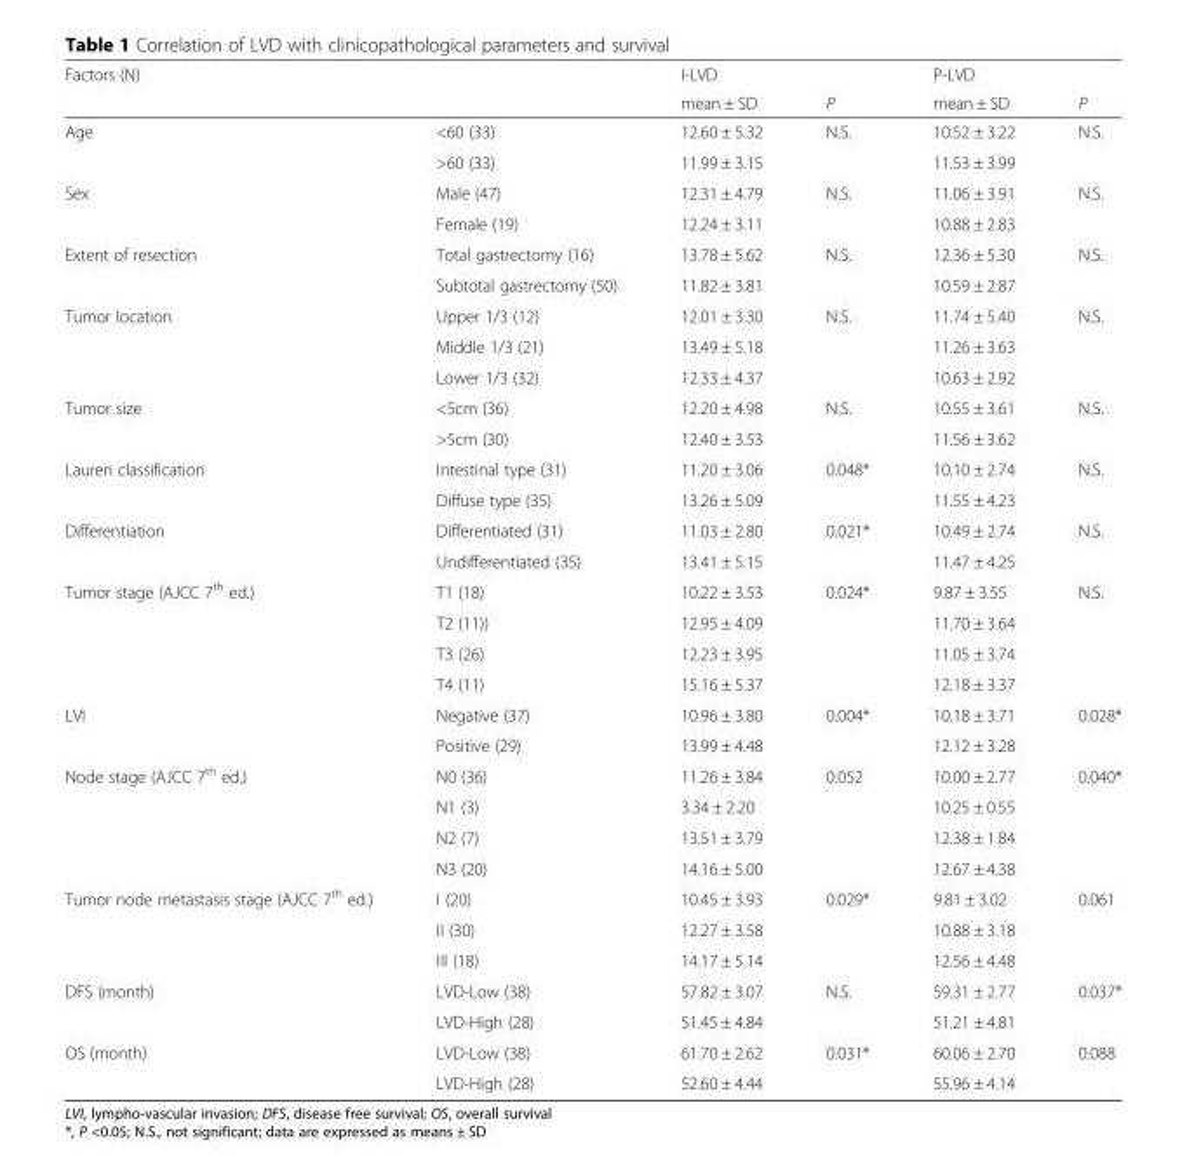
<table><thead><tr><td colspan="2">Factors (N)</td><td colspan="2">I-LVD</td><td colspan="2">P-LVD</td></tr><tr><td></td><td></td><td>mean ± SD</td><td>P</td><td>mean ± SD</td><td>P</td></tr></thead><tbody><tr><td rowspan="2">Age</td><td>&lt;60 (33)</td><td>12.60 ± 5.32</td><td>N.S.</td><td>10.52 ± 3.22</td><td>N.S.</td></tr><tr><td>&gt;60 (33)</td><td>11.99 ± 3.15</td><td></td><td>11.53 ± 3.99</td><td></td></tr><tr><td rowspan="2">Sex</td><td>Male (47)</td><td>12.31 ± 4.79</td><td>N.S.</td><td>11.06 ± 3.91</td><td>N.S.</td></tr><tr><td>Female (19)</td><td>12.24 ± 3.11</td><td></td><td>10.88 ± 2.83</td><td></td></tr><tr><td rowspan="2">Extent of resection</td><td>Total gastrectomy (16)</td><td>13.78 ± 5.62</td><td>N.S.</td><td>12.36 ± 5.30</td><td>N.S.</td></tr><tr><td>Subtotal gastrectomy (50)</td><td>11.82 ± 3.81</td><td></td><td>10.59 ± 2.87</td><td></td></tr><tr><td rowspan="3">Tumor location</td><td>Upper 1/3 (12)</td><td>12.01 ± 3.30</td><td>N.S.</td><td>11.74 ± 5.40</td><td>N.S.</td></tr><tr><td>Middle 1/3 (21)</td><td>13.49 ± 5.18</td><td></td><td>11.26 ± 3.63</td><td></td></tr><tr><td>Lower 1/3 (32)</td><td>12.33 ± 4.37</td><td></td><td>10.63 ± 2.92</td><td></td></tr><tr><td rowspan="2">Tumor size</td><td>&lt;5cm (36)</td><td>12.20 ± 4.98</td><td>N.S.</td><td>10.55 ± 3.61</td><td>N.S.</td></tr><tr><td>&gt;5cm (30)</td><td>12.40 ± 3.53</td><td></td><td>11.56 ± 3.62</td><td></td></tr><tr><td rowspan="2">Lauren classification</td><td>Intestinal type (31)</td><td>11.20 ± 3.06</td><td>0.048*</td><td>10.10 ± 2.74</td><td>N.S.</td></tr><tr><td>Diffuse type (35)</td><td>13.26 ± 5.09</td><td></td><td>11.55 ± 4.23</td><td></td></tr><tr><td rowspan="2">Differentiation</td><td>Differentiated (31)</td><td>11.03 ± 2.80</td><td>0.021*</td><td>10.49 ± 2.74</td><td>N.S.</td></tr><tr><td>Undifferentiated (35)</td><td>13.41 ± 5.15</td><td></td><td>11.47 ± 4.25</td><td></td></tr><tr><td rowspan="4">Tumor stage (AJCC 7<sup>th</sup> ed.)</td><td>T1 (18)</td><td>10.22 ± 3.53</td><td>0.024*</td><td>9.87 ± 3.55</td><td>N.S.</td></tr><tr><td>T2 (11))</td><td>12.95 ± 4.09</td><td></td><td>11.70 ± 3.64</td><td></td></tr><tr><td>T3 (26)</td><td>12.23 ± 3.95</td><td></td><td>11.05 ± 3.74</td><td></td></tr><tr><td>T4 (11)</td><td>15.16 ± 5.37</td><td></td><td>12.18 ± 3.37</td><td></td></tr><tr><td rowspan="2">LVI</td><td>Negative (37)</td><td>10.96 ± 3.80</td><td>0.004*</td><td>10.18 ± 3.71</td><td>0.028*</td></tr><tr><td>Positive (29)</td><td>13.99 ± 4.48</td><td></td><td>12.12 ± 3.28</td><td></td></tr><tr><td rowspan="4">Node stage (AJCC 7<sup>th</sup> ed.)</td><td>N0 (36)</td><td>11.26 ± 3.84</td><td>0.052</td><td>10.00 ± 2.77</td><td>0.040*</td></tr><tr><td>N1 (3)</td><td>3.34 ± 2.20</td><td></td><td>10.25 ± 0.55</td><td></td></tr><tr><td>N2 (7)</td><td>13.51 ± 3.79</td><td></td><td>12.38 ± 1.84</td><td></td></tr><tr><td>N3 (20)</td><td>14.16 ± 5.00</td><td></td><td>12.67 ± 4.38</td><td></td></tr><tr><td rowspan="3">Tumor node metastasis stage (AJCC 7<sup>th</sup> ed.)</td><td>I (20)</td><td>10.45 ± 3.93</td><td>0.029*</td><td>9.81 ± 3.02</td><td>0.061</td></tr><tr><td>II (30)</td><td>12.27 ± 3.58</td><td></td><td>10.88 ± 3.18</td><td></td></tr><tr><td>III (18)</td><td>14.17 ± 5.14</td><td></td><td>12.56 ± 4.48</td><td></td></tr><tr><td rowspan="2">DFS (month)</td><td>LVD-Low (38)</td><td>57.82 ± 3.07</td><td>N.S.</td><td>59.31 ± 2.77</td><td>0.037*</td></tr><tr><td>LVD-High (28)</td><td>51.45 ± 4.84</td><td></td><td>51.21 ± 4.81</td><td></td></tr><tr><td rowspan="2">OS (month)</td><td>LVD-Low (38)</td><td>61.70 ± 2.62</td><td>0.031*</td><td>60.06 ± 2.70</td><td>0.088</td></tr><tr><td>LVD-High (28)</td><td>52.60 ± 4.44</td><td></td><td>55.96 ± 4.14</td><td></td></tr></tbody></table>